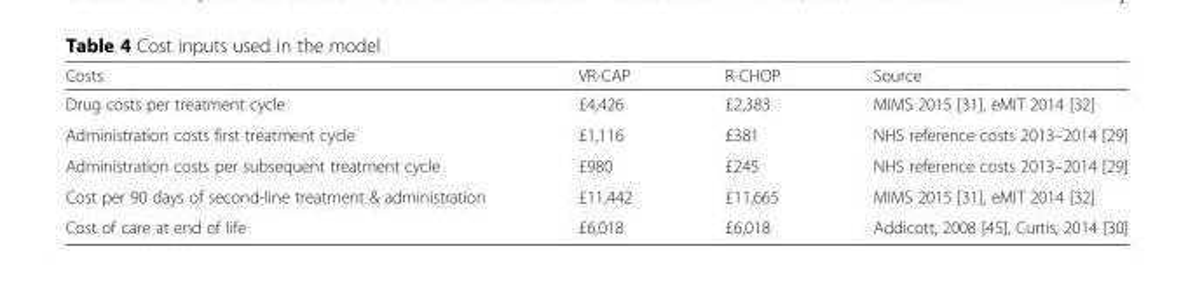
<table><thead><tr><td>Costs</td><td>VR-CAP</td><td>R-CHOP</td><td>Source</td></tr></thead><tbody><tr><td>Drug costs per treatment cycle</td><td>£4,426</td><td>£2,383</td><td>MIMS 2015 [31], eMIT 2014 [32]</td></tr><tr><td>Administration costs first treatment cycle</td><td>£1,116</td><td>£381</td><td>NHS reference costs 2013–2014 [29]</td></tr><tr><td>Administration costs per subsequent treatment cycle</td><td>£980</td><td>£245</td><td>NHS reference costs 2013–2014 [29]</td></tr><tr><td>Cost per 90 days of second-line treatment &amp; administration</td><td>£11,442</td><td>£11,665</td><td>MIMS 2015 [31], eMIT 2014 [32]</td></tr><tr><td>Cost of care at end of life</td><td>£6,018</td><td>£6,018</td><td>Addicott, 2008 [45], Curtis, 2014 [30]</td></tr></tbody></table>